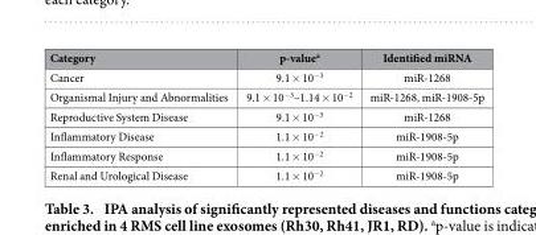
<table><thead><tr><td>Category</td><td>p-value<sup>a</sup></td><td>Identified miRNA</td></tr></thead><tbody><tr><td>Cancer</td><td>9.1 × 10<sup>−3</sup></td><td>miR-1268</td></tr><tr><td>Organismal Injury and Abnormalities</td><td>9.1 × 10<sup>−3</sup>–1.14 × 10<sup>−2</sup></td><td>miR-1268, miR-1908-5p</td></tr><tr><td>Reproductive System Disease</td><td>9.1 × 10<sup>−3</sup></td><td>miR-1268</td></tr><tr><td>Inflammatory Disease</td><td>1.1 × 10<sup>−2</sup></td><td>miR-1908-5p</td></tr><tr><td>Inflammatory Response</td><td>1.1 × 10<sup>−2</sup></td><td>miR-1908-5p</td></tr><tr><td>Renal and Urological Disease</td><td>1.1 × 10<sup>−2</sup></td><td>miR-1908-5p</td></tr></tbody></table>